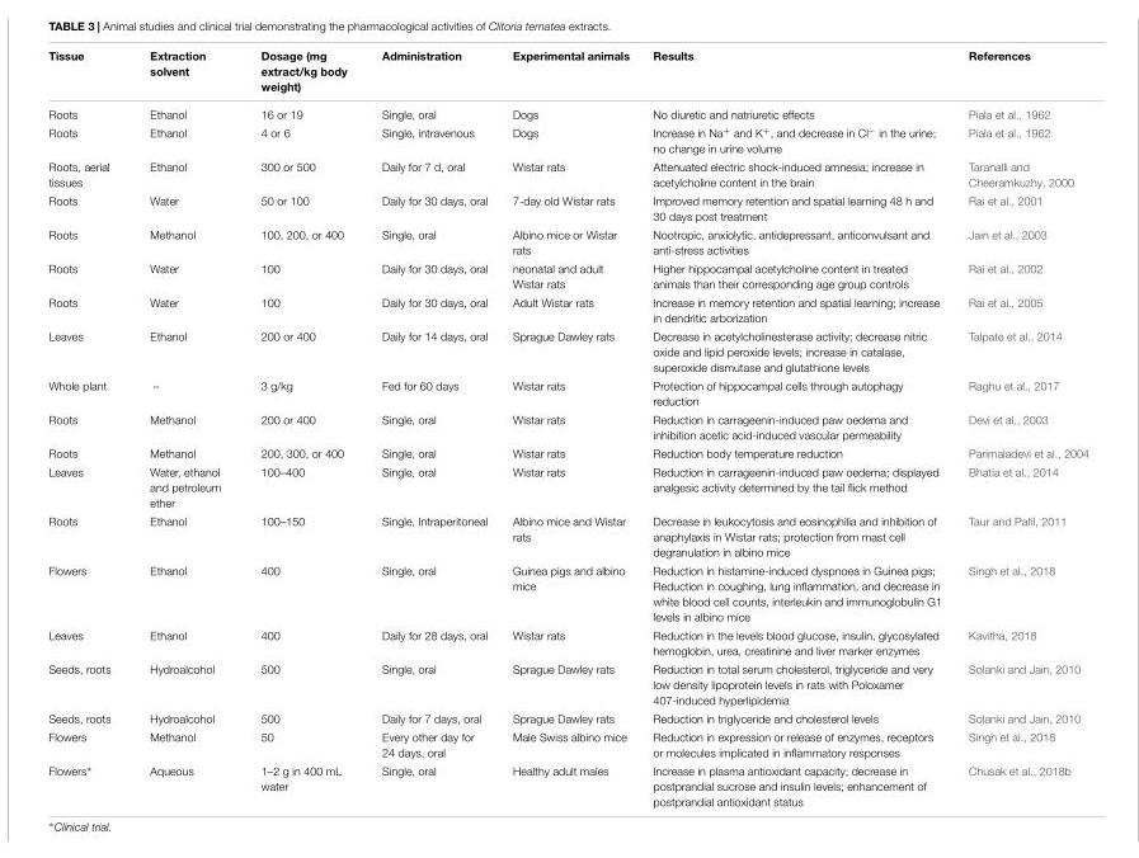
<table><thead><tr><td>Tissue</td><td>Extraction solvent</td><td>Dosage (mg extract/kg body weight)</td><td>Administration</td><td>Experimental animals</td><td>Results</td><td>References</td></tr></thead><tbody><tr><td>Roots</td><td>Ethanol</td><td>16 or 19</td><td>Single, oral</td><td>Dogs</td><td>No diuretic and natriuretic effects</td><td>Piala et al., 1962</td></tr><tr><td>Roots</td><td>Ethanol</td><td>4 or 6</td><td>Single, intravenous</td><td>Dogs</td><td>Increase in Na<sup>+</sup> and K<sup>+</sup>, and decrease in Cl<sup>−</sup> in the urine; no change in urine volume</td><td>Piala et al., 1962</td></tr><tr><td>Roots, aerial tissues</td><td>Ethanol</td><td>300 or 500</td><td>Daily for 7 d, oral</td><td>Wistar rats</td><td>Attenuated electric shock-induced amnesia; increase in acetylcholine content in the brain</td><td>Taranalli and Cheeramkuzhy, 2000</td></tr><tr><td>Roots</td><td>Water</td><td>50 or 100</td><td>Daily for 30 days, oral</td><td>7-day old Wistar rats</td><td>Improved memory retention and spatial learning 48 h and 30 days post treatment</td><td>Rai et al., 2001</td></tr><tr><td>Roots</td><td>Methanol</td><td>100, 200, or 400</td><td>Single, oral</td><td>Albino mice or Wistar rats</td><td>Nootropic, anxiolytic, antidepressant, anticonvulsant and anti-stress activities</td><td>Jain et al., 2003</td></tr><tr><td>Roots</td><td>Water</td><td>100</td><td>Daily for 30 days, oral</td><td>neonatal and adult Wistar rats</td><td>Higher hippocampal acetylcholine content in treated animals than their corresponding age group controls</td><td>Rai et al., 2002</td></tr><tr><td>Roots</td><td>Water</td><td>100</td><td>Daily for 30 days, oral</td><td>Adult Wistar rats</td><td>Increase in memory retention and spatial learning; increase in dendritic arborization</td><td>Rai et al., 2005</td></tr><tr><td>Leaves</td><td>Ethanol</td><td>200 or 400</td><td>Daily for 14 days, oral</td><td>Sprague Dawley rats</td><td>Decrease in acetylcholinesterase activity; decrease nitric oxide and lipid peroxide levels; increase in catalase, superoxide dismutase and glutathione levels</td><td>Talpate et al., 2014</td></tr><tr><td>Whole plant</td><td>–</td><td>3 g/kg</td><td>Fed for 60 days</td><td>Wistar rats</td><td>Protection of hippocampal cells through autophagy reduction</td><td>Raghu et al., 2017</td></tr><tr><td>Roots</td><td>Methanol</td><td>200 or 400</td><td>Single, oral</td><td>Wistar rats</td><td>Reduction in carrageenin-induced paw oedema and inhibition acetic acid-induced vascular permeability</td><td>Devi et al., 2003</td></tr><tr><td>Roots</td><td>Methanol</td><td>200, 300, or 400</td><td>Single, oral</td><td>Wistar rats</td><td>Reduction body temperature reduction</td><td>Parimaladevi et al., 2004</td></tr><tr><td>Leaves</td><td>Water, ethanol and petroleum ether</td><td>100–400</td><td>Single, oral</td><td>Wistar rats</td><td>Reduction in carrageenin-induced paw oedema; displayed analgesic activity determined by the tail flick method</td><td>Bhatia et al., 2014</td></tr><tr><td>Roots</td><td>Ethanol</td><td>100–150</td><td>Single, Intraperitoneal</td><td>Albino mice and Wistar rats</td><td>Decrease in leukocytosis and eosinophilia and inhibition of anaphylaxis in Wistar rats; protection from mast cell degranulation in albino mice</td><td>Taur and Patil, 2011</td></tr><tr><td>Flowers</td><td>Ethanol</td><td>400</td><td>Single, oral</td><td>Guinea pigs and albino mice</td><td>Reduction in histamine-induced dyspnoea in Guinea pigs; Reduction in coughing, lung inflammation, and decrease in white blood cell counts, interleukin and immunoglobulin G1 levels in albino mice</td><td>Singh et al., 2018</td></tr><tr><td>Leaves</td><td>Ethanol</td><td>400</td><td>Daily for 28 days, oral</td><td>Wistar rats</td><td>Reduction in the levels blood glucose, insulin, glycosylated hemoglobin, urea, creatinine and liver marker enzymes</td><td>Kavitha, 2018</td></tr><tr><td>Seeds, roots</td><td>Hydroalcohol</td><td>500</td><td>Single, oral</td><td>Sprague Dawley rats</td><td>Reduction in total serum cholesterol, triglyceride and very low density lipoprotein levels in rats with Poloxamer 407-induced hyperlipidemia</td><td>Solanki and Jain, 2010</td></tr><tr><td>Seeds, roots</td><td>Hydroalcohol</td><td>500</td><td>Daily for 7 days, oral</td><td>Sprague Dawley rats</td><td>Reduction in triglyceride and cholesterol levels</td><td>Solanki and Jain, 2010</td></tr><tr><td>Flowers</td><td>Methanol</td><td>50</td><td>Every other day for 24 days, oral</td><td>Male Swiss albino mice</td><td>Reduction in expression or release of enzymes, receptors or molecules implicated in inflammatory responses</td><td>Singh et al., 2018</td></tr><tr><td>Flowers∗</td><td>Aqueous</td><td>1–2 g in 400 mL water</td><td>Single, oral</td><td>Healthy adult males</td><td>Increase in plasma antioxidant capacity; decrease in postprandial sucrose and insulin levels; enhancement of postprandial antioxidant status</td><td>Chusak et al., 2018b</td></tr></tbody></table>